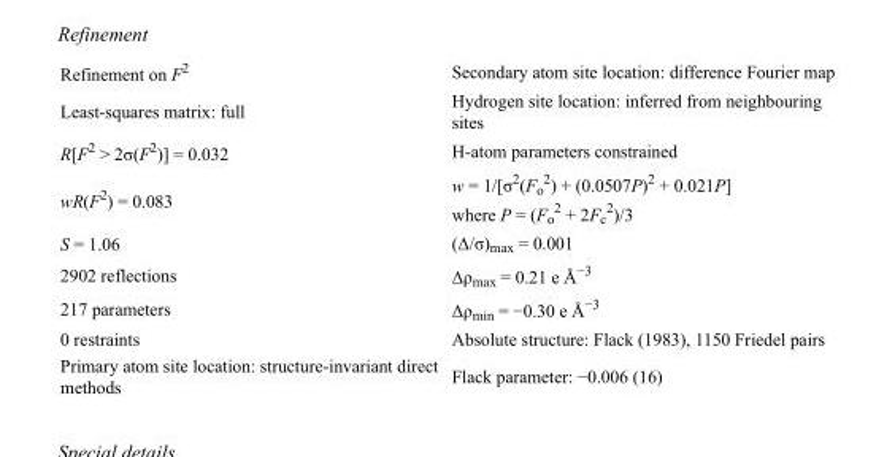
<table><tbody><tr><td>Refinement on F<sup>2</sup></td><td>Secondary atom site location: difference Fourier map</td></tr><tr><td>Least-squares matrix: full</td><td>Hydrogen site location: inferred from neighbouring sites</td></tr><tr><td>R[F<sup>2</sup> &gt; 2σ(F<sup>2</sup>)] = 0.032</td><td>H-atom parameters constrained</td></tr><tr><td>wR(F<sup>2</sup>) = 0.083</td><td>w = 1/[σ<sup>2</sup>(F<sub>o</sub> <sup>2</sup>) + (0.0507P)<sup>2</sup> + 0.021P] where P = (F<sub>o</sub> <sup>2</sup> + 2F<sub>c</sub> <sup>2</sup>)/3</td></tr><tr><td>S = 1.06</td><td>(Δ/σ)<sub>max</sub> = 0.001</td></tr><tr><td>2902 reflections</td><td>Δρ<sub>max</sub> = 0.21 e Å<sup>−3</sup></td></tr><tr><td>217 parameters</td><td>Δρ<sub>min</sub> = −0.30 e Å<sup>−3</sup></td></tr><tr><td>0 restraints</td><td>Absolute structure: Flack (1983), 1150 Friedel pairs</td></tr><tr><td>Primary atom site location: structure-invariant direct methods</td><td>Flack parameter: −0.006 (16)</td></tr></tbody></table>